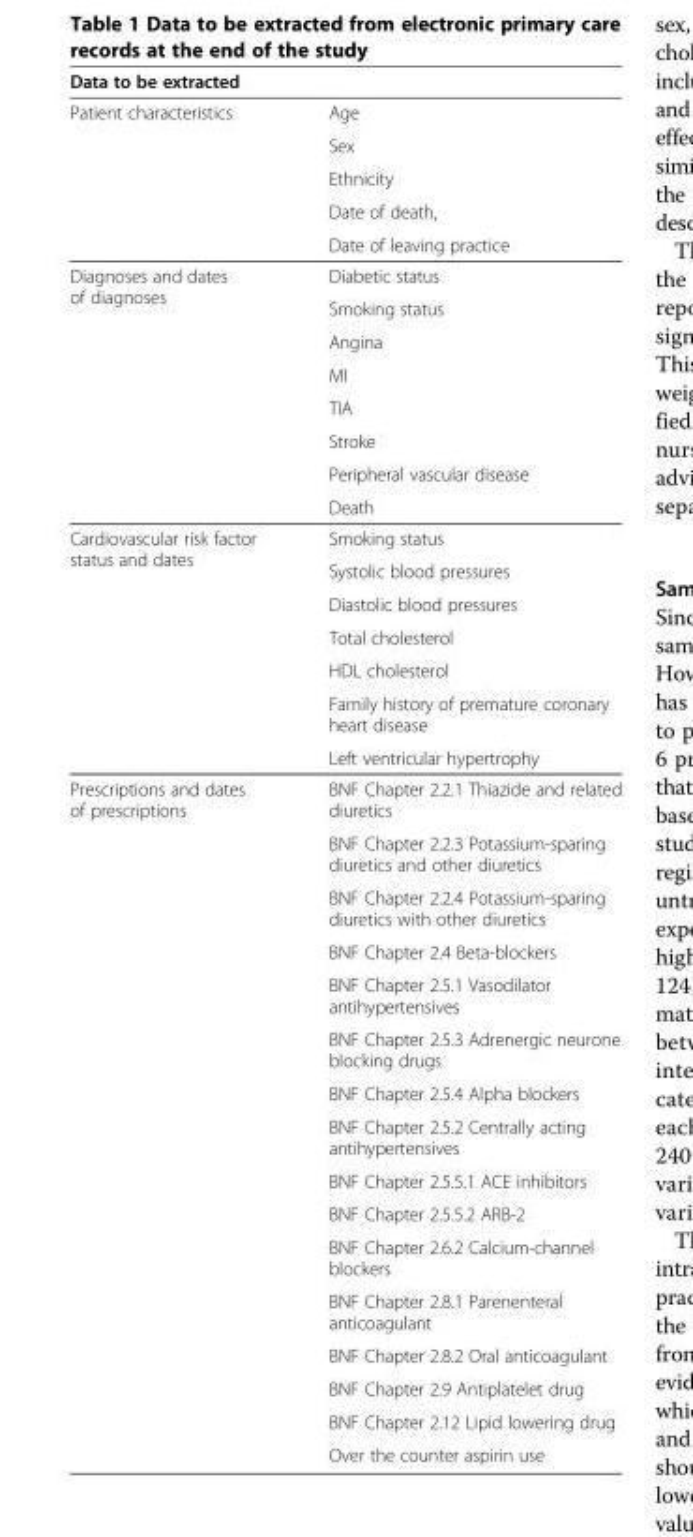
<table><thead><tr><td>Data to be extracted</td><td></td></tr></thead><tbody><tr><td rowspan="5">Patient characteristics</td><td>Age</td></tr><tr><td>Sex</td></tr><tr><td>Ethnicity</td></tr><tr><td>Date of death,</td></tr><tr><td>Date of leaving practice</td></tr><tr><td rowspan="8">Diagnoses and dates of diagnoses</td><td>Diabetic status</td></tr><tr><td>Smoking status</td></tr><tr><td>Angina</td></tr><tr><td>MI</td></tr><tr><td>TIA</td></tr><tr><td>Stroke</td></tr><tr><td>Peripheral vascular disease</td></tr><tr><td>Death</td></tr><tr><td rowspan="7">Cardiovascular risk factor status and dates</td><td>Smoking status</td></tr><tr><td>Systolic blood pressures</td></tr><tr><td>Diastolic blood pressures</td></tr><tr><td>Total cholesterol</td></tr><tr><td>HDL cholesterol</td></tr><tr><td>Family history of premature coronary heart disease</td></tr><tr><td>Left ventricular hypertrophy</td></tr><tr><td rowspan="16">Prescriptions and dates of prescriptions</td><td>BNF Chapter 2.2.1 Thiazide and related diuretics</td></tr><tr><td>BNF Chapter 2.2.3 Potassium-sparing diuretics and other diuretics</td></tr><tr><td>BNF Chapter 2.2.4 Potassium-sparing diuretics with other diuretics</td></tr><tr><td>BNF Chapter 2.4 Beta-blockers</td></tr><tr><td>BNF Chapter 2.5.1 Vasodilator antihypertensives</td></tr><tr><td>BNF Chapter 2.5.3 Adrenergic neurone blocking drugs</td></tr><tr><td>BNF Chapter 2.5.4 Alpha blockers</td></tr><tr><td>BNF Chapter 2.5.2 Centrally acting antihypertensives</td></tr><tr><td>BNF Chapter 2.5.5.1 ACE inhibitors</td></tr><tr><td>BNF Chapter 2.5.5.2 ARB-2</td></tr><tr><td>BNF Chapter 2.6.2 Calcium-channel blockers</td></tr><tr><td>BNF Chapter 2.8.1 Parenenteral anticoagulant</td></tr><tr><td>BNF Chapter 2.8.2 Oral anticoagulant</td></tr><tr><td>BNF Chapter 2.9 Antiplatelet drug</td></tr><tr><td>BNF Chapter 2.12 Lipid lowering drug</td></tr><tr><td>Over the counter aspirin use</td></tr></tbody></table>